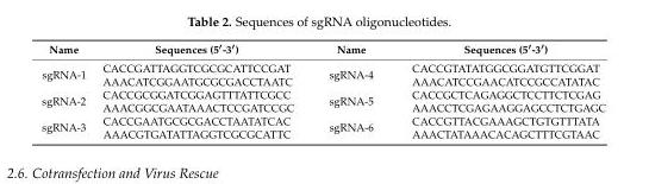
<table><thead><tr><td>Name</td><td>Sequences (5′-3′)</td><td>Name</td><td>Sequences (5′-3′)</td></tr></thead><tbody><tr><td rowspan="2">sgRNA-1</td><td>CACCGATTAGGTCGCGCATTCCGAT</td><td rowspan="2">sgRNA-4</td><td>CACCGTATATGGCGGATGTTCGGAT</td></tr><tr><td>AAACATCGGAATGCGCGACCTAATC</td><td>AAACATCCGAACATCCGCCATATAC</td></tr><tr><td rowspan="2">sgRNA-2</td><td>CACCGCGGATCGGAGTTTATTCGCC</td><td rowspan="2">sgRNA-5</td><td>CACCGCTCAGAGGCTCCTTCTCGAG</td></tr><tr><td>AAACGGCGAATAAACTCCGATCCGC</td><td>AAACCTCGAGAAGGAGCCTCTGAGC</td></tr><tr><td rowspan="2">sgRNA-3</td><td>CACCGAATGCGCGACCTAATATCAC</td><td rowspan="2">sgRNA-6</td><td>CACCGTTACGAAAGCTGTGTTTATA</td></tr><tr><td>AAACGTGATATTAGGTCGCGCATTC</td><td>AAACTATAAACACAGCTTTCGTAAC</td></tr></tbody></table>